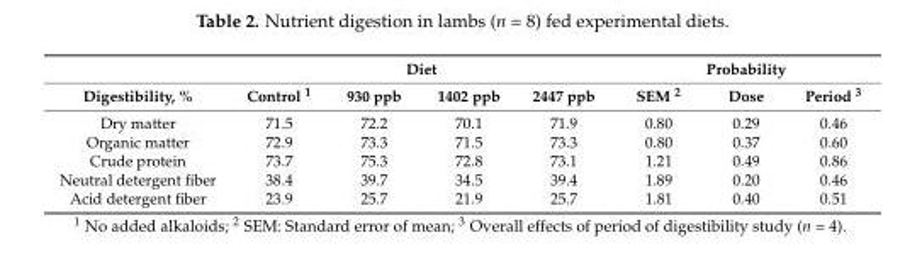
<table><thead><tr><td rowspan="2">Digestibility, %</td><td colspan="4">Diet</td><td colspan="3">Probability</td></tr><tr><td>Control <sup>1</sup></td><td>930 ppb</td><td>1402 ppb</td><td>2447 ppb</td><td>SEM <sup>2</sup></td><td>Dose</td><td>Period <sup>3</sup></td></tr></thead><tbody><tr><td>Dry matter</td><td>71.5</td><td>72.2</td><td>70.1</td><td>71.9</td><td>0.80</td><td>0.29</td><td>0.46</td></tr><tr><td>Organic matter</td><td>72.9</td><td>73.3</td><td>71.5</td><td>73.3</td><td>0.80</td><td>0.37</td><td>0.60</td></tr><tr><td>Crude protein</td><td>73.7</td><td>75.3</td><td>72.8</td><td>73.1</td><td>1.21</td><td>0.49</td><td>0.86</td></tr><tr><td>Neutral detergent fiber</td><td>38.4</td><td>39.7</td><td>34.5</td><td>39.4</td><td>1.89</td><td>0.20</td><td>0.46</td></tr><tr><td>Acid detergent fiber</td><td>23.9</td><td>25.7</td><td>21.9</td><td>25.7</td><td>1.81</td><td>0.40</td><td>0.51</td></tr></tbody></table>